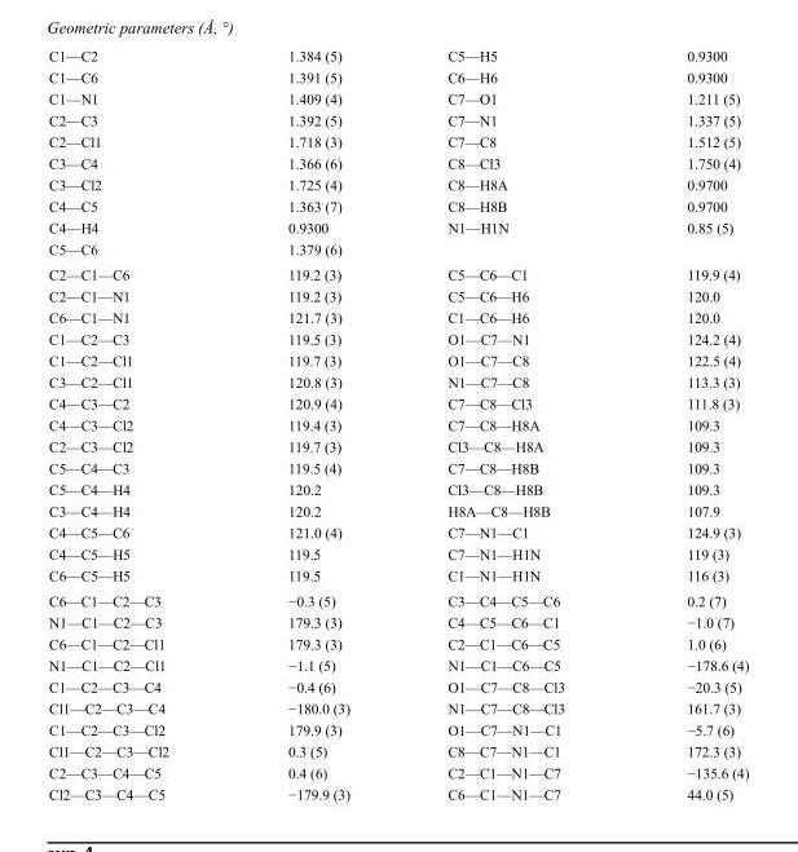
<table><tbody><tr><td>C1—C2</td><td>1.384 (5)</td><td>C5—H5</td><td>0.9300</td></tr><tr><td>C1—C6</td><td>1.391 (5)</td><td>C6—H6</td><td>0.9300</td></tr><tr><td>C1—N1</td><td>1.409 (4)</td><td>C7—O1</td><td>1.211 (5)</td></tr><tr><td>C2—C3</td><td>1.392 (5)</td><td>C7—N1</td><td>1.337 (5)</td></tr><tr><td>C2—Cl1</td><td>1.718 (3)</td><td>C7—C8</td><td>1.512 (5)</td></tr><tr><td>C3—C4</td><td>1.366 (6)</td><td>C8—Cl3</td><td>1.750 (4)</td></tr><tr><td>C3—Cl2</td><td>1.725 (4)</td><td>C8—H8A</td><td>0.9700</td></tr><tr><td>C4—C5</td><td>1.363 (7)</td><td>C8—H8B</td><td>0.9700</td></tr><tr><td>C4—H4</td><td>0.9300</td><td>N1—H1N</td><td>0.85 (5)</td></tr><tr><td>C5—C6</td><td>1.379 (6)</td><td></td><td></td></tr><tr><td>C2—C1—C6</td><td>119.2 (3)</td><td>C5—C6—C1</td><td>119.9 (4)</td></tr><tr><td>C2—C1—N1</td><td>119.2 (3)</td><td>C5—C6—H6</td><td>120.0</td></tr><tr><td>C6—C1—N1</td><td>121.7 (3)</td><td>C1—C6—H6</td><td>120.0</td></tr><tr><td>C1—C2—C3</td><td>119.5 (3)</td><td>O1—C7—N1</td><td>124.2 (4)</td></tr><tr><td>C1—C2—Cl1</td><td>119.7 (3)</td><td>O1—C7—C8</td><td>122.5 (4)</td></tr><tr><td>C3—C2—Cl1</td><td>120.8 (3)</td><td>N1—C7—C8</td><td>113.3 (3)</td></tr><tr><td>C4—C3—C2</td><td>120.9 (4)</td><td>C7—C8—Cl3</td><td>111.8 (3)</td></tr><tr><td>C4—C3—Cl2</td><td>119.4 (3)</td><td>C7—C8—H8A</td><td>109.3</td></tr><tr><td>C2—C3—Cl2</td><td>119.7 (3)</td><td>Cl3—C8—H8A</td><td>109.3</td></tr><tr><td>C5—C4—C3</td><td>119.5 (4)</td><td>C7—C8—H8B</td><td>109.3</td></tr><tr><td>C5—C4—H4</td><td>120.2</td><td>Cl3—C8—H8B</td><td>109.3</td></tr><tr><td>C3—C4—H4</td><td>120.2</td><td>H8A—C8—H8B</td><td>107.9</td></tr><tr><td>C4—C5—C6</td><td>121.0 (4)</td><td>C7—N1—C1</td><td>124.9 (3)</td></tr><tr><td>C4—C5—H5</td><td>119.5</td><td>C7—N1—H1N</td><td>119 (3)</td></tr><tr><td>C6—C5—H5</td><td>119.5</td><td>C1—N1—H1N</td><td>116 (3)</td></tr><tr><td>C6—C1—C2—C3</td><td>−0.3 (5)</td><td>C3—C4—C5—C6</td><td>0.2 (7)</td></tr><tr><td>N1—C1—C2—C3</td><td>179.3 (3)</td><td>C4—C5—C6—C1</td><td>−1.0 (7)</td></tr><tr><td>C6—C1—C2—Cl1</td><td>179.3 (3)</td><td>C2—C1—C6—C5</td><td>1.0 (6)</td></tr><tr><td>N1—C1—C2—Cl1</td><td>−1.1 (5)</td><td>N1—C1—C6—C5</td><td>−178.6 (4)</td></tr><tr><td>C1—C2—C3—C4</td><td>−0.4 (6)</td><td>O1—C7—C8—Cl3</td><td>−20.3 (5)</td></tr><tr><td>Cl1—C2—C3—C4</td><td>−180.0 (3)</td><td>N1—C7—C8—Cl3</td><td>161.7 (3)</td></tr><tr><td>C1—C2—C3—Cl2</td><td>179.9 (3)</td><td>O1—C7—N1—C1</td><td>−5.7 (6)</td></tr><tr><td>Cl1—C2—C3—Cl2</td><td>0.3 (5)</td><td>C8—C7—N1—C1</td><td>172.3 (3)</td></tr><tr><td>C2—C3—C4—C5</td><td>0.4 (6)</td><td>C2—C1—N1—C7</td><td>−135.6 (4)</td></tr><tr><td>Cl2—C3—C4—C5</td><td>−179.9 (3)</td><td>C6—C1—N1—C7</td><td>44.0 (5)</td></tr></tbody></table>